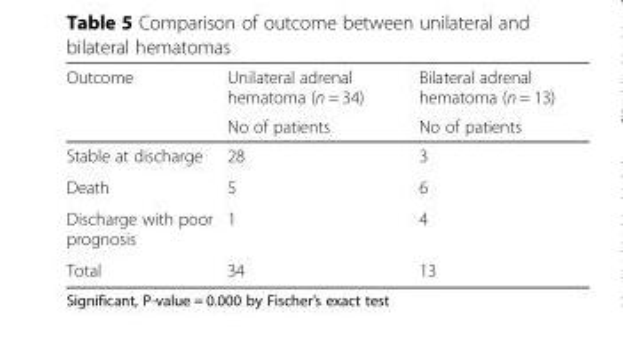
<table><thead><tr><td rowspan="2">Outcome</td><td rowspan="2">Unilateral adrenal hematoma (n = 34) No of patients</td><td rowspan="2">Bilateral adrenal hematoma (n = 13) No of patients</td></tr><tr></tr></thead><tbody><tr><td>Stable at discharge</td><td>28</td><td>3</td></tr><tr><td>Death</td><td>5</td><td>6</td></tr><tr><td>Discharge with poor prognosis</td><td>1</td><td>4</td></tr><tr><td>Total</td><td>34</td><td>13</td></tr></tbody></table>